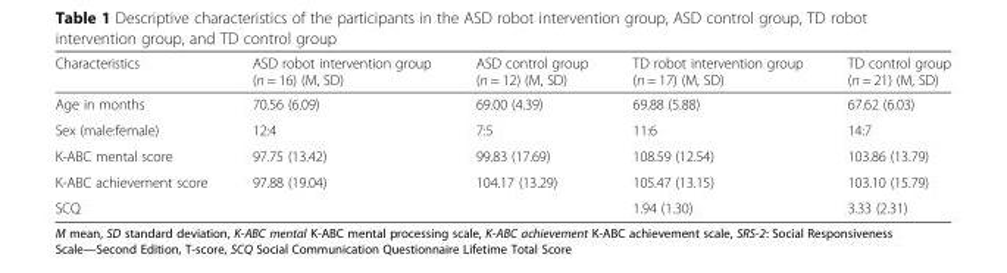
<table><thead><tr><td>Characteristics</td><td>ASD robot intervention group (n = 16) (M, SD)</td><td>ASD control group (n = 12) (M, SD)</td><td>TD robot intervention group (n = 17) (M, SD)</td><td>TD control group (n = 21) (M, SD)</td></tr></thead><tbody><tr><td>Age in months</td><td>70.56 (6.09)</td><td>69.00 (4.39)</td><td>69.88 (5.88)</td><td>67.62 (6.03)</td></tr><tr><td>Sex (male:female)</td><td>12:4</td><td>7:5</td><td>11:6</td><td>14:7</td></tr><tr><td>K-ABC mental score</td><td>97.75 (13.42)</td><td>99.83 (17.69)</td><td>108.59 (12.54)</td><td>103.86 (13.79)</td></tr><tr><td>K-ABC achievement score</td><td>97.88 (19.04)</td><td>104.17 (13.29)</td><td>105.47 (13.15)</td><td>103.10 (15.79)</td></tr><tr><td>SCQ</td><td></td><td></td><td>1.94 (1.30)</td><td>3.33 (2.31)</td></tr></tbody></table>